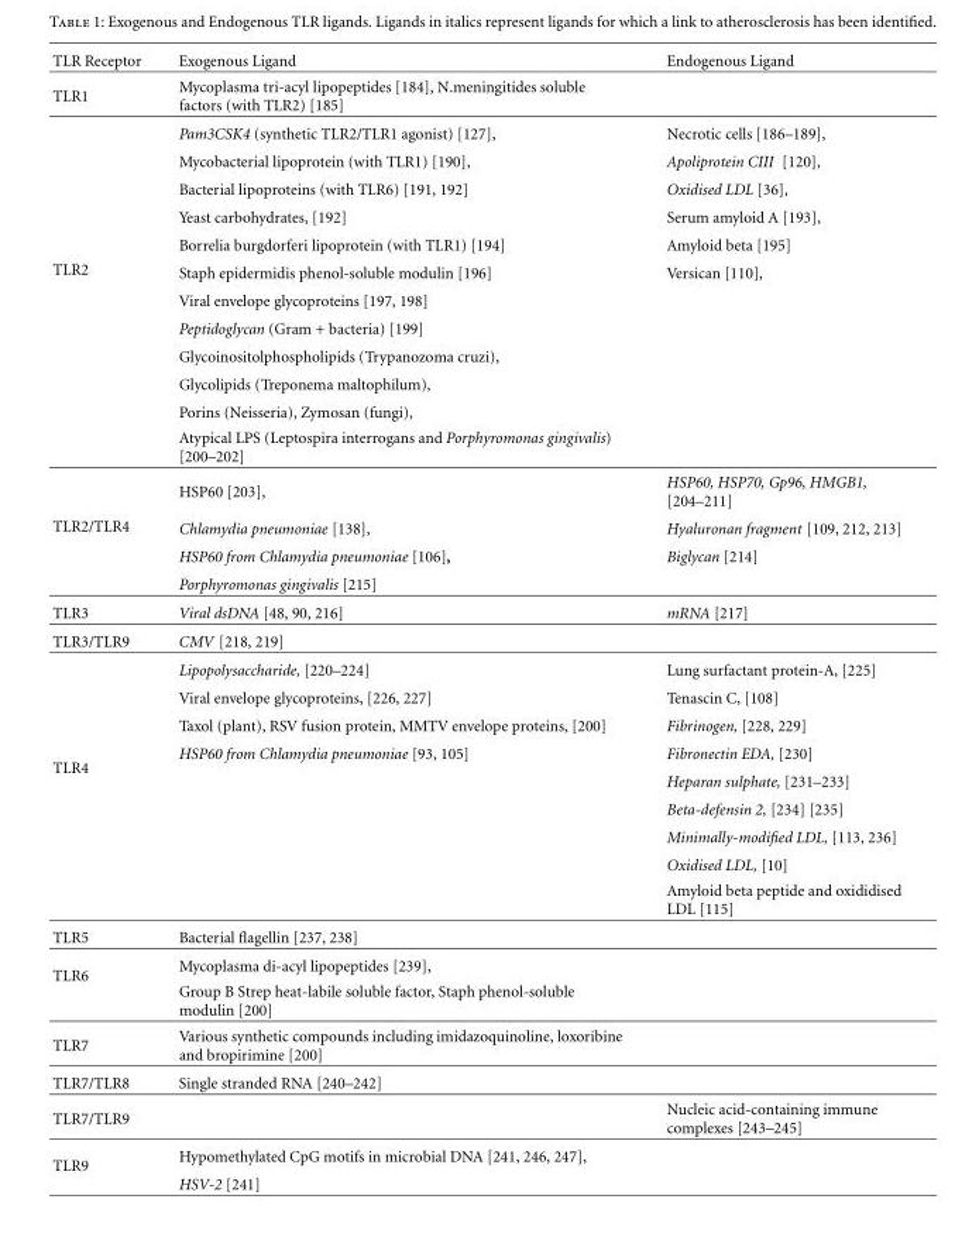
<table><thead><tr><td>TLR Receptor</td><td>Exogenous Ligand</td><td>Endogenous Ligand</td></tr></thead><tbody><tr><td>TLR1</td><td>Mycoplasma tri-acyl lipopeptides [184], N.meningitides soluble factors (with TLR2) [185]</td><td></td></tr><tr><td rowspan="12">TLR2</td><td>Pam3CSK4 (synthetic TLR2/TLR1 agonist) [127],</td><td>Necrotic cells [186–189],</td></tr><tr><td>Mycobacterial lipoprotein (with TLR1) [190],</td><td>Apoliprotein CIII [120],</td></tr><tr><td>Bacterial lipoproteins (with TLR6) [191, 192]</td><td>Oxidised LDL [36],</td></tr><tr><td>Yeast carbohydrates, [192]</td><td>Serum amyloid A [193],</td></tr><tr><td>Borrelia burgdorferi lipoprotein (with TLR1) [194]</td><td>Amyloid beta [195]</td></tr><tr><td>Staph epidermidis phenol-soluble modulin [196]</td><td>Versican [110],</td></tr><tr><td>Viral envelope glycoproteins [197, 198]</td><td></td></tr><tr><td>Peptidoglycan (Gram + bacteria) [199]</td><td></td></tr><tr><td>Glycoinositolphospholipids (Trypanozoma cruzi),</td><td></td></tr><tr><td>Glycolipids (Treponema maltophilum),</td><td></td></tr><tr><td>Porins (Neisseria), Zymosan (fungi),</td><td></td></tr><tr><td>Atypical LPS (Leptospira interrogans and Porphyromonas gingivalis) [200–202]</td><td></td></tr><tr><td rowspan="4">TLR2/TLR4</td><td>HSP60 [203],</td><td>HSP60, HSP70, Gp96, HMGB1, [204–211]</td></tr><tr><td>Chlamydia pneumoniae [138],</td><td>Hyaluronan fragment [109, 212, 213]</td></tr><tr><td>HSP60 from Chlamydia pneumoniae [106],</td><td>Biglycan [214]</td></tr><tr><td>Porphyromonas gingivalis [215]</td><td></td></tr><tr><td>TLR3</td><td>Viral dsDNA [48, 90, 216]</td><td>mRNA [217]</td></tr><tr><td>TLR3/TLR9</td><td>CMV [218, 219]</td><td></td></tr><tr><td rowspan="9">TLR4</td><td>Lipopolysaccharide, [220–224]</td><td>Lung surfactant protein-A, [225]</td></tr><tr><td>Viral envelope glycoproteins, [226, 227]</td><td>Tenascin C, [108]</td></tr><tr><td>Taxol (plant), RSV fusion protein, MMTV envelope proteins, [200]</td><td>Fibrinogen, [228, 229]</td></tr><tr><td>HSP60 from Chlamydia pneumoniae [93, 105]</td><td>Fibronectin EDA, [230]</td></tr><tr><td></td><td>Heparan sulphate, [231–233]</td></tr><tr><td></td><td>Beta-defensin 2, [234] [235]</td></tr><tr><td></td><td>Minimally-modified LDL, [113, 236]</td></tr><tr><td></td><td>Oxidised LDL, [10]</td></tr><tr><td></td><td>Amyloid beta peptide and oxididised LDL [115]</td></tr><tr><td>TLR5</td><td>Bacterial flagellin [237, 238]</td><td></td></tr><tr><td rowspan="2">TLR6</td><td>Mycoplasma di-acyl lipopeptides [239],</td><td></td></tr><tr><td>Group B Strep heat-labile soluble factor, Staph phenol-soluble modulin [200]</td><td></td></tr><tr><td>TLR7</td><td>Various synthetic compounds including imidazoquinoline, loxoribine and bropirimine [200]</td><td></td></tr><tr><td>TLR7/TLR8</td><td>Single stranded RNA [240–242]</td><td></td></tr><tr><td>TLR7/TLR9</td><td></td><td>Nucleic acid-containing immune complexes [243–245]</td></tr><tr><td rowspan="2">TLR9</td><td>Hypomethylated CpG motifs in microbial DNA [241, 246, 247],</td><td></td></tr><tr><td>HSV-2 [241]</td><td></td></tr></tbody></table>